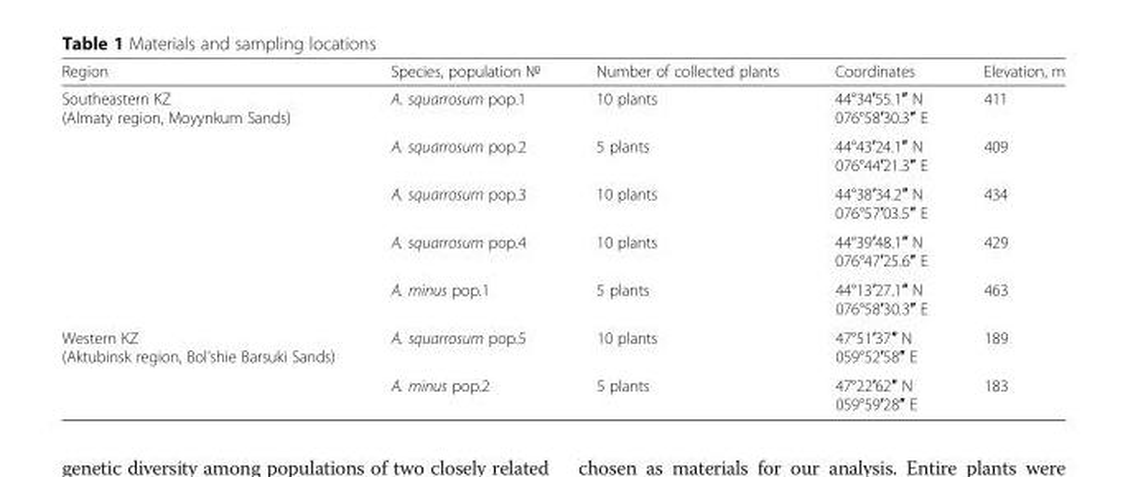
<table><thead><tr><td>Region</td><td>Species, population №</td><td>Number of collected plants</td><td>Coordinates</td><td>Elevation, m</td></tr></thead><tbody><tr><td rowspan="5">Southeastern KZ (Almaty region, Moyynkum Sands)</td><td>A. squarrosum pop.1</td><td>10 plants</td><td>44°34′55.1″ N 076°58′30.3″ E</td><td>411</td></tr><tr><td>A. squarrosum pop.2</td><td>5 plants</td><td>44°43′24.1″ N 076°44′21.3″ E</td><td>409</td></tr><tr><td>A. squarrosum pop.3</td><td>10 plants</td><td>44°38′34.2″ N 076°57′03.5″ E</td><td>434</td></tr><tr><td>A. squarrosum pop.4</td><td>10 plants</td><td>44°39′48.1″ N 076°47′25.6″ E</td><td>429</td></tr><tr><td>A. minus pop.1</td><td>5 plants</td><td>44°13′27.1″ N 076°58′30.3″ E</td><td>463</td></tr><tr><td rowspan="2">Western KZ (Aktubinsk region, Bol’shie Barsuki Sands)</td><td>A. squarrosum pop.5</td><td>10 plants</td><td>47°51′37″ N 059°52′58″ E</td><td>189</td></tr><tr><td>A. minus pop.2</td><td>5 plants</td><td>47°22′62″ N 059°59′28″ E</td><td>183</td></tr></tbody></table>